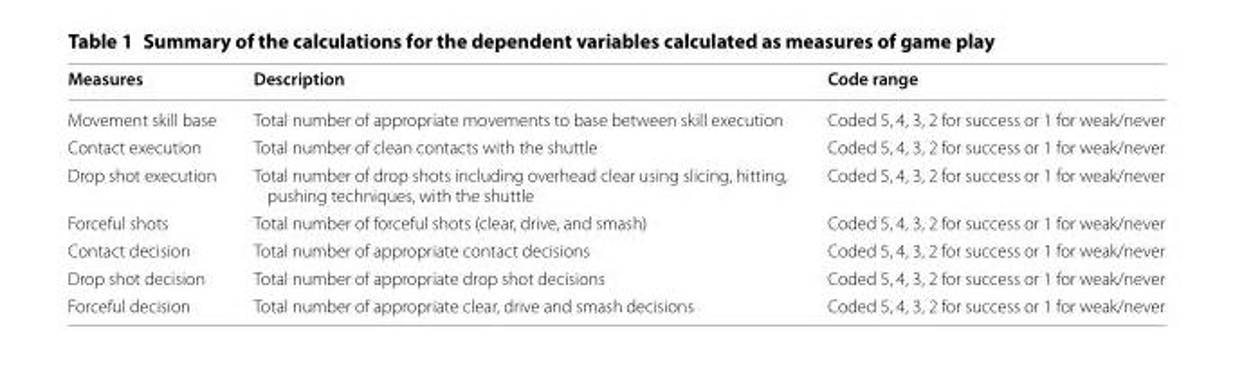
<table><thead><tr><td>Measures</td><td>Description</td><td>Code range</td></tr></thead><tbody><tr><td>Movement skill base</td><td>Total number of appropriate movements to base between skill execution</td><td>Coded 5, 4, 3, 2 for success or 1 for weak/never</td></tr><tr><td>Contact execution</td><td>Total number of clean contacts with the shuttle</td><td>Coded 5, 4, 3, 2 for success or 1 for weak/never</td></tr><tr><td>Drop shot execution</td><td>Total number of drop shots including overhead clear using slicing, hitting, pushing techniques, with the shuttle</td><td>Coded 5, 4, 3, 2 for success or 1 for weak/never</td></tr><tr><td>Forceful shots</td><td>Total number of forceful shots (clear, drive, and smash)</td><td>Coded 5, 4, 3, 2 for success or 1 for weak/never</td></tr><tr><td>Contact decision</td><td>Total number of appropriate contact decisions</td><td>Coded 5, 4, 3, 2 for success or 1 for weak/never</td></tr><tr><td>Drop shot decision</td><td>Total number of appropriate drop shot decisions</td><td>Coded 5, 4, 3, 2 for success or 1 for weak/never</td></tr><tr><td>Forceful decision</td><td>Total number of appropriate clear, drive and smash decisions</td><td>Coded 5, 4, 3, 2 for success or 1 for weak/never</td></tr></tbody></table>